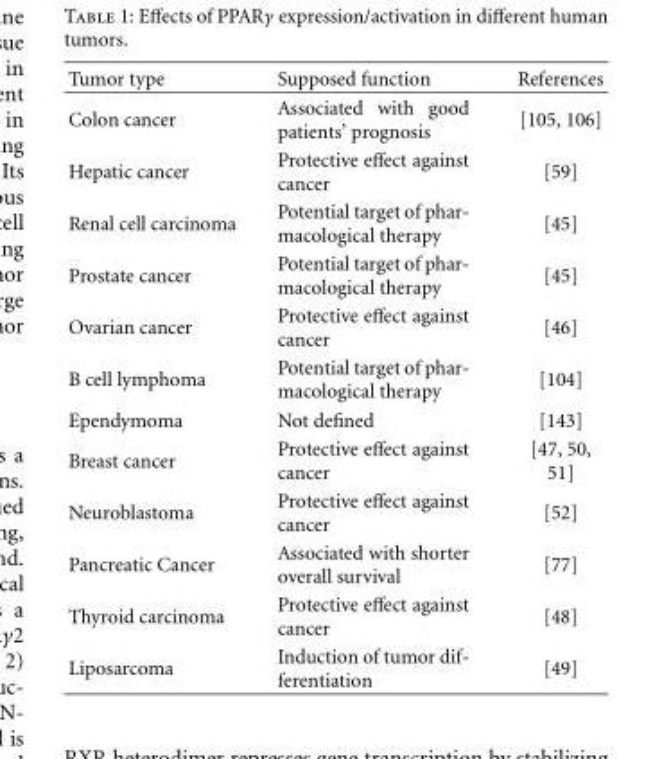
<table><thead><tr><td>Tumor type</td><td>Supposed function</td><td>References</td></tr></thead><tbody><tr><td>Colon cancer</td><td>Associated with good patients’ prognosis</td><td>[105, 106]</td></tr><tr><td>Hepatic cancer</td><td>Protective effect against cancer</td><td>[59]</td></tr><tr><td>Renal cell carcinoma</td><td>Potential target of phar- macological therapy</td><td>[45]</td></tr><tr><td>Prostate cancer</td><td>Potential target of phar- macological therapy</td><td>[45]</td></tr><tr><td>Ovarian cancer</td><td>Protective effect against cancer</td><td>[46]</td></tr><tr><td>B cell lymphoma</td><td>Potential target of phar- macological therapy</td><td>[104]</td></tr><tr><td>Ependymoma</td><td>Not defined</td><td>[143]</td></tr><tr><td>Breast cancer</td><td>Protective effect against cancer</td><td>[47, 50, 51]</td></tr><tr><td>Neuroblastoma</td><td>Protective effect against cancer</td><td>[52]</td></tr><tr><td>Pancreatic Cancer</td><td>Associated with shorter overall survival</td><td>[77]</td></tr><tr><td>Thyroid carcinoma</td><td>Protective effect against cancer</td><td>[48]</td></tr><tr><td>Liposarcoma</td><td>Induction of tumor dif- ferentiation</td><td>[49]</td></tr></tbody></table>